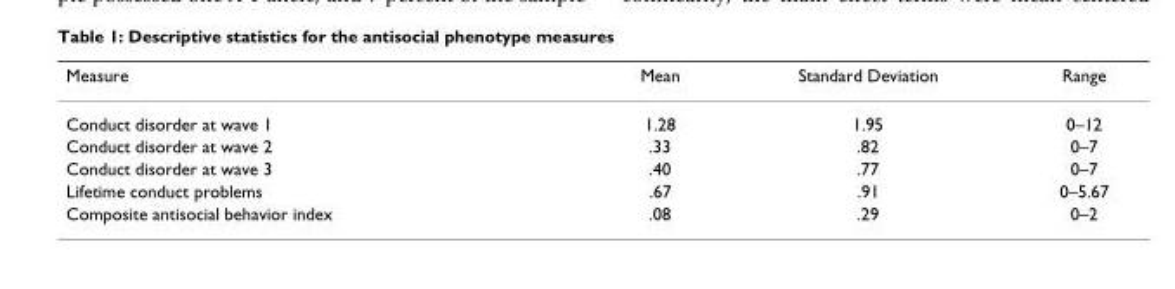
<table><thead><tr><td>Measure</td><td>Mean</td><td>Standard Deviation</td><td>Range</td></tr></thead><tbody><tr><td>Conduct disorder at wave 1</td><td>1.28</td><td>1.95</td><td>0–12</td></tr><tr><td>Conduct disorder at wave 2</td><td>.33</td><td>.82</td><td>0–7</td></tr><tr><td>Conduct disorder at wave 3</td><td>.40</td><td>.77</td><td>0–7</td></tr><tr><td>Lifetime conduct problems</td><td>.67</td><td>.91</td><td>0–5.67</td></tr><tr><td>Composite antisocial behavior index</td><td>.08</td><td>.29</td><td>0–2</td></tr></tbody></table>